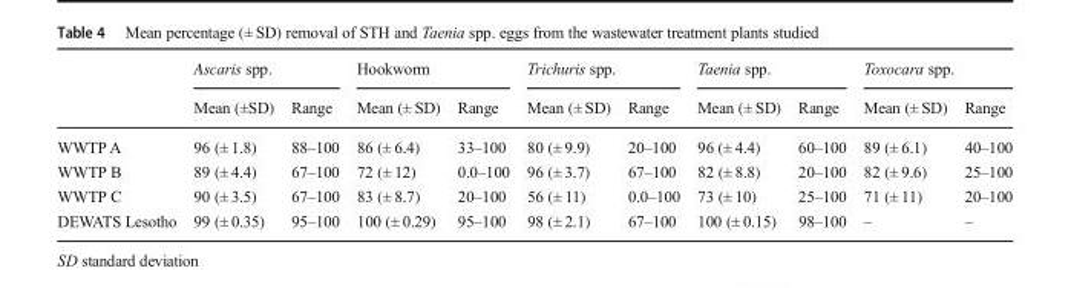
<table><thead><tr><td rowspan="2"></td><td colspan="2">Ascaris spp.</td><td colspan="2">Hookworm</td><td colspan="2">Trichuris spp.</td><td colspan="2">Taenia spp.</td><td colspan="2">Toxocara spp.</td></tr><tr><td>Mean (±SD)</td><td>Range</td><td>Mean (± SD)</td><td>Range</td><td>Mean (± SD)</td><td>Range</td><td>Mean (± SD)</td><td>Range</td><td>Mean (± SD)</td><td>Range</td></tr></thead><tbody><tr><td>WWTP A</td><td>96 (± 1.8)</td><td>88–100</td><td>86 (± 6.4)</td><td>33–100</td><td>80 (± 9.9)</td><td>20–100</td><td>96 (± 4.4)</td><td>60–100</td><td>89 (± 6.1)</td><td>40–100</td></tr><tr><td>WWTP B</td><td>89 (± 4.4)</td><td>67–100</td><td>72 (± 12)</td><td>0.0–100</td><td>96 (± 3.7)</td><td>67–100</td><td>82 (± 8.8)</td><td>20–100</td><td>82 (± 9.6)</td><td>25–100</td></tr><tr><td>WWTP C</td><td>90 (± 3.5)</td><td>67–100</td><td>83 (± 8.7)</td><td>20–100</td><td>56 (± 11)</td><td>0.0–100</td><td>73 (± 10)</td><td>25–100</td><td>71 (± 11)</td><td>20–100</td></tr><tr><td>DEWATS Lesotho</td><td>99 (± 0.35)</td><td>95–100</td><td>100 (± 0.29)</td><td>95–100</td><td>98 (± 2.1)</td><td>67–100</td><td>100 (± 0.15)</td><td>98–100</td><td>–</td><td>–</td></tr></tbody></table>